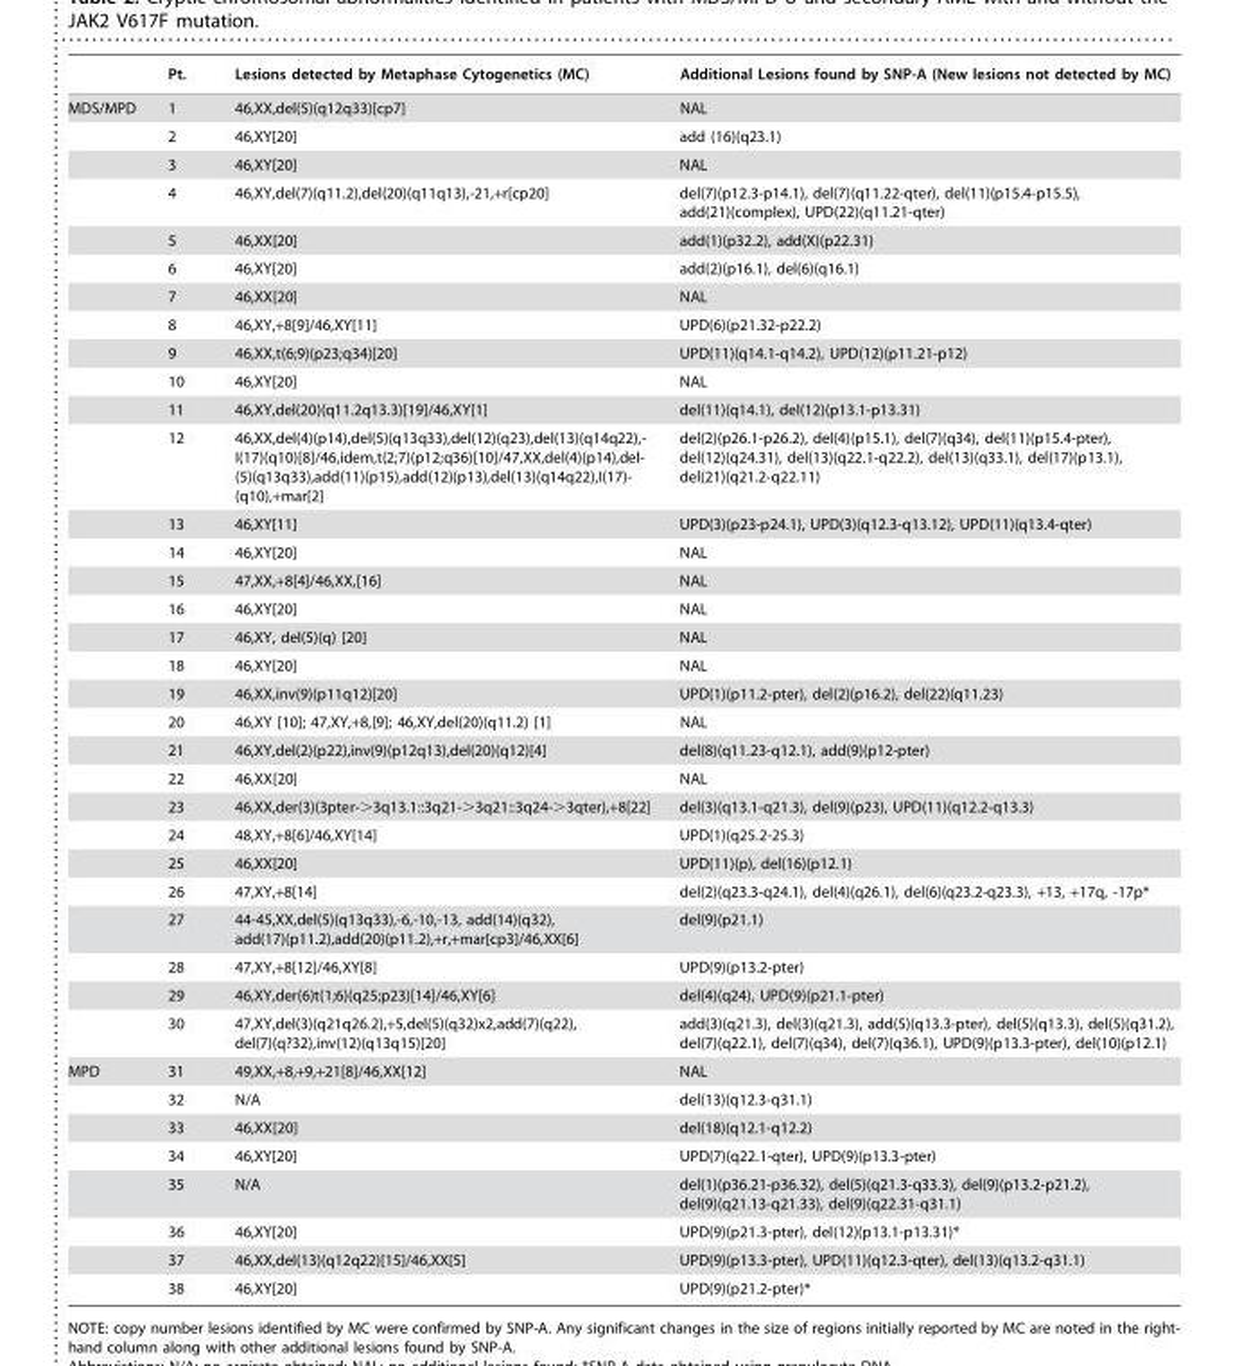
<table><thead><tr><td></td><td>Pt.</td><td>Lesions detected by Metaphase Cytogenetics (MC)</td><td>Additional Lesions found by SNP-A (New lesions not detected by MC)</td></tr></thead><tbody><tr><td rowspan="30">MDS/MPD</td><td>1</td><td>46,XX,del(5)(q12q33)[cp7]</td><td>NAL</td></tr><tr><td>2</td><td>46,XY[20]</td><td>add (16)(q23.1)</td></tr><tr><td>3</td><td>46,XY[20]</td><td>NAL</td></tr><tr><td>4</td><td>46,XY,del(7)(q11.2),del(20)(q11q13),-21,+r[cp20]</td><td>del(7)(p12.3-p14.1), del(7)(q11.22-qter), del(11)(p15.4-p15.5), add(21)(complex), UPD(22)(q11.21-qter)</td></tr><tr><td>5</td><td>46,XX[20]</td><td>add(1)(p32.2), add(X)(p22.31)</td></tr><tr><td>6</td><td>46,XY[20]</td><td>add(2)(p16.1), del(6)(q16.1)</td></tr><tr><td>7</td><td>46,XX[20]</td><td>NAL</td></tr><tr><td>8</td><td>46,XY,+8[9]/46,XY[11]</td><td>UPD(6)(p21.32-p22.2)</td></tr><tr><td>9</td><td>46,XX,t(6;9)(p23;q34)[20]</td><td>UPD(11)(q14.1-q14.2), UPD(12)(p11.21-p12)</td></tr><tr><td>10</td><td>46,XY[20]</td><td>NAL</td></tr><tr><td>11</td><td>46,XY,del(20)(q11.2q13.3)[19]/46,XY[1]</td><td>del(11)(q14.1), del(12)(p13.1-p13.31)</td></tr><tr><td>12</td><td>46,XX,del(4)(p14),del(5)(q13q33),del(12)(q23),del(13)(q14q22),- I(17)(q10)[8]/46,idem,t(2;7)(p12;q36)[10]/47,XX,del(4)(p14),del- (5)(q13q33),add(11)(p15),add(12)(p13),del(13)(q14q22),I(17)- (q10),+mar[2]</td><td>del(2)(p26.1-p26.2), del(4)(p15.1), del(7)(q34), del(11)(p15.4-pter), del(12)(q24.31), del(13)(q22.1-q22.2), del(13)(q33.1), del(17)(p13.1), del(21)(q21.2-q22.11)</td></tr><tr><td>13</td><td>46,XY[11]</td><td>UPD(3)(p23-p24.1), UPD(3)(q12.3-q13.12), UPD(11)(q13.4-qter)</td></tr><tr><td>14</td><td>46,XY[20]</td><td>NAL</td></tr><tr><td>15</td><td>47,XX,+8[4]/46,XX,[16]</td><td>NAL</td></tr><tr><td>16</td><td>46,XY[20]</td><td>NAL</td></tr><tr><td>17</td><td>46,XY, del(5)(q) [20]</td><td>NAL</td></tr><tr><td>18</td><td>46,XY[20]</td><td>NAL</td></tr><tr><td>19</td><td>46,XX,inv(9)(p11q12)[20]</td><td>UPD(1)(p11.2-pter), del(2)(p16.2), del(22)(q11.23)</td></tr><tr><td>20</td><td>46,XY [10]; 47,XY,+8,[9]; 46,XY,del(20)(q11.2) [1]</td><td>NAL</td></tr><tr><td>21</td><td>46,XY,del(2)(p22),inv(9)(p12q13),del(20)(q12)[4]</td><td>del(8)(q11.23-q12.1), add(9)(p12-pter)</td></tr><tr><td>22</td><td>46,XX[20]</td><td>NAL</td></tr><tr><td>23</td><td>46,XX,der(3)(3pter-&gt;3q13.1::3q21-&gt;3q21::3q24-&gt;3qter),+8[22]</td><td>del(3)(q13.1-q21.3), del(9)(p23), UPD(11)(q12.2-q13.3)</td></tr><tr><td>24</td><td>48,XY,+8[6]/46,XY[14]</td><td>UPD(1)(q25.2-25.3)</td></tr><tr><td>25</td><td>46,XX[20]</td><td>UPD(11)(p), del(16)(p12.1)</td></tr><tr><td>26</td><td>47,XY,+8[14]</td><td>del(2)(q23.3-q24.1), del(4)(q26.1), del(6)(q23.2-q23.3), +13, +17q, -17p*</td></tr><tr><td>27</td><td>44-45,XX,del(5)(q13q33),-6,-10,-13, add(14)(q32), add(17)(p11.2),add(20)(p11.2),+r,+mar[cp3]/46,XX[6]</td><td>del(9)(p21.1)</td></tr><tr><td>28</td><td>47,XY,+8[12]/46,XY[8]</td><td>UPD(9)(p13.2-pter)</td></tr><tr><td>29</td><td>46,XY,der(6)t(1;6)(q25;p23)[14]/46,XY[6]</td><td>del(4)(q24), UPD(9)(p21.1-pter)</td></tr><tr><td>30</td><td>47,XY,del(3)(q21q26.2),+5,del(5)(q32)x2,add(7)(q22), del(7)(q?32),inv(12)(q13q15)[20]</td><td>add(3)(q21.3), del(3)(q21.3), add(5)(q13.3-pter), del(5)(q13.3), del(5)(q31.2), del(7)(q22.1), del(7)(q34), del(7)(q36.1), UPD(9)(p13.3-pter), del(10)(p12.1)</td></tr><tr><td rowspan="8">MPD</td><td>31</td><td>49,XX,+8,+9,+21[8]/46,XX[12]</td><td>NAL</td></tr><tr><td>32</td><td>N/A</td><td>del(13)(q12.3-q31.1)</td></tr><tr><td>33</td><td>46,XX[20]</td><td>del(18)(q12.1-q12.2)</td></tr><tr><td>34</td><td>46,XY[20]</td><td>UPD(7)(q22.1-qter), UPD(9)(p13.3-pter)</td></tr><tr><td>35</td><td>N/A</td><td>del(1)(p36.21-p36.32), del(5)(q21.3-q33.3), del(9)(p13.2-p21.2), del(9)(q21.13-q21.33), del(9)(q22.31-q31.1)</td></tr><tr><td>36</td><td>46,XY[20]</td><td>UPD(9)(p21.3-pter), del(12)(p13.1-p13.31)*</td></tr><tr><td>37</td><td>46,XX,del(13)(q12q22)[15]/46,XX[5]</td><td>UPD(9)(p13.3-pter), UPD(11)(q12.3-qter), del(13)(q13.2-q31.1)</td></tr><tr><td>38</td><td>46,XY[20]</td><td>UPD(9)(p21.2-pter)*</td></tr></tbody></table>